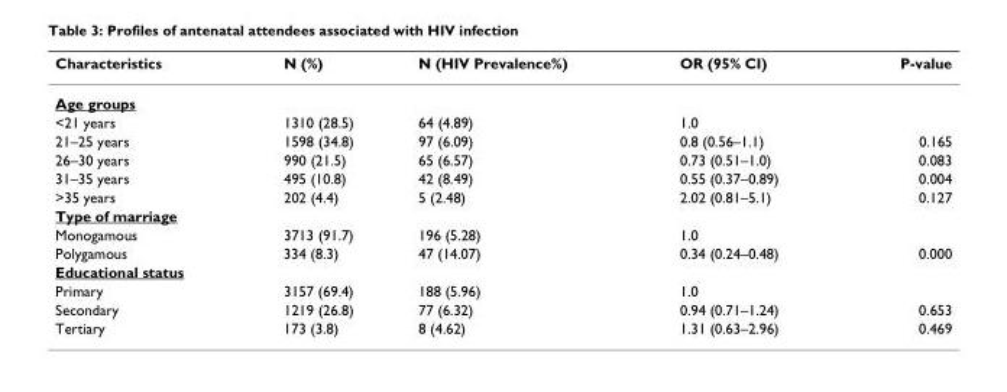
<table><thead><tr><td>Characteristics</td><td>N (%)</td><td>N (HIV Prevalence%)</td><td>OR (95% CI)</td><td>P-value</td></tr></thead><tbody><tr><td colspan="5">Age groups</td></tr><tr><td>&lt;21 years</td><td>1310 (28.5)</td><td>64 (4.89)</td><td>1.0</td><td></td></tr><tr><td>21–25 years</td><td>1598 (34.8)</td><td>97 (6.09)</td><td>0.8 (0.56–1.1)</td><td>0.165</td></tr><tr><td>26–30 years</td><td>990 (21.5)</td><td>65 (6.57)</td><td>0.73 (0.51–1.0)</td><td>0.083</td></tr><tr><td>31–35 years</td><td>495 (10.8)</td><td>42 (8.49)</td><td>0.55 (0.37–0.89)</td><td>0.004</td></tr><tr><td>&gt;35 years</td><td>202 (4.4)</td><td>5 (2.48)</td><td>2.02 (0.81–5.1)</td><td>0.127</td></tr><tr><td colspan="5">Type of marriage</td></tr><tr><td>Monogamous</td><td>3713 (91.7)</td><td>196 (5.28)</td><td>1.0</td><td></td></tr><tr><td>Polygamous</td><td>334 (8.3)</td><td>47 (14.07)</td><td>0.34 (0.24–0.48)</td><td>0.000</td></tr><tr><td colspan="5">Educational status</td></tr><tr><td>Primary</td><td>3157 (69.4)</td><td>188 (5.96)</td><td>1.0</td><td></td></tr><tr><td>Secondary</td><td>1219 (26.8)</td><td>77 (6.32)</td><td>0.94 (0.71–1.24)</td><td>0.653</td></tr><tr><td>Tertiary</td><td>173 (3.8)</td><td>8 (4.62)</td><td>1.31 (0.63–2.96)</td><td>0.469</td></tr></tbody></table>